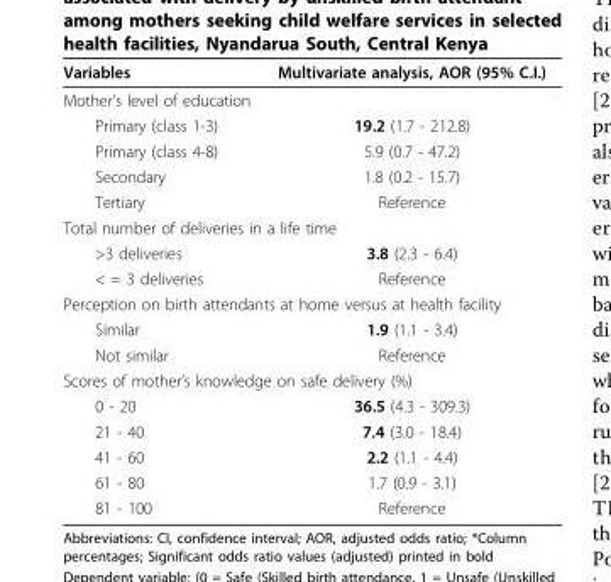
<table><thead><tr><td>Variables</td><td>Multivariate analysis, AOR (95% C.I.)</td></tr></thead><tbody><tr><td colspan="2">Mother’s level of education</td></tr><tr><td>Primary (class 1-3)</td><td>19.2 (1.7 - 212.8)</td></tr><tr><td>Primary (class 4-8)</td><td>5.9 (0.7 - 47.2)</td></tr><tr><td>Secondary</td><td>1.8 (0.2 - 15.7)</td></tr><tr><td>Tertiary</td><td>Reference</td></tr><tr><td colspan="2">Total number of deliveries in a life time</td></tr><tr><td>&gt;3 deliveries</td><td>3.8 (2.3 - 6.4)</td></tr><tr><td>&lt; = 3 deliveries</td><td>Reference</td></tr><tr><td colspan="2">Perception on birth attendants at home versus at health facility</td></tr><tr><td>Similar</td><td>1.9 (1.1 - 3.4)</td></tr><tr><td>Not similar</td><td>Reference</td></tr><tr><td colspan="2">Scores of mother’s knowledge on safe delivery (%)</td></tr><tr><td>0 - 20</td><td>36.5 (4.3 - 309.3)</td></tr><tr><td>21 - 40</td><td>7.4 (3.0 - 18.4)</td></tr><tr><td>41 - 60</td><td>2.2 (1.1 - 4.4)</td></tr><tr><td>61 - 80</td><td>1.7 (0.9 - 3.1)</td></tr><tr><td>81 - 100</td><td>Reference</td></tr></tbody></table>